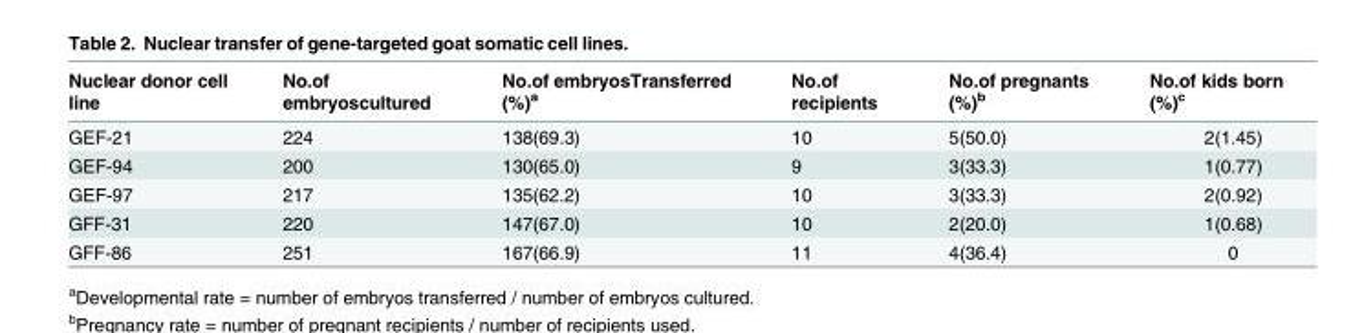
<table><thead><tr><td>Nuclear donor cell line</td><td>No.of embryoscultured</td><td>No.of embryosTransferred (%)<sup>a</sup></td><td>No.of recipients</td><td>No.of pregnants (%)<sup>b</sup></td><td>No.of kids born (%)<sup>c</sup></td></tr></thead><tbody><tr><td>GEF-21</td><td>224</td><td>138(69.3)</td><td>10</td><td>5(50.0)</td><td>2(1.45)</td></tr><tr><td>GEF-94</td><td>200</td><td>130(65.0)</td><td>9</td><td>3(33.3)</td><td>1(0.77)</td></tr><tr><td>GEF-97</td><td>217</td><td>135(62.2)</td><td>10</td><td>3(33.3)</td><td>2(0.92)</td></tr><tr><td>GFF-31</td><td>220</td><td>147(67.0)</td><td>10</td><td>2(20.0)</td><td>1(0.68)</td></tr><tr><td>GFF-86</td><td>251</td><td>167(66.9)</td><td>11</td><td>4(36.4)</td><td>0</td></tr></tbody></table>